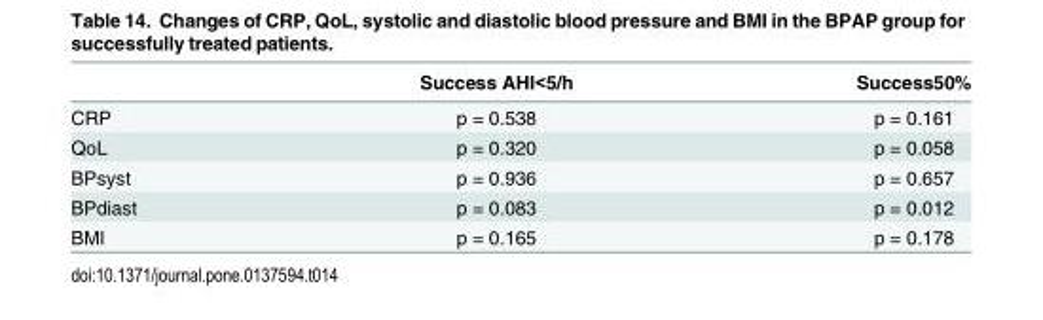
<table><thead><tr><td></td><td>Success AHI&lt;5/h</td><td>Success50%</td></tr></thead><tbody><tr><td>CRP</td><td>p = 0.538</td><td>p = 0.161</td></tr><tr><td>QoL</td><td>p = 0.320</td><td>p = 0.058</td></tr><tr><td>BPsyst</td><td>p = 0.936</td><td>p = 0.657</td></tr><tr><td>BPdiast</td><td>p = 0.083</td><td>p = 0.012</td></tr><tr><td>BMI</td><td>p = 0.165</td><td>p = 0.178</td></tr></tbody></table>